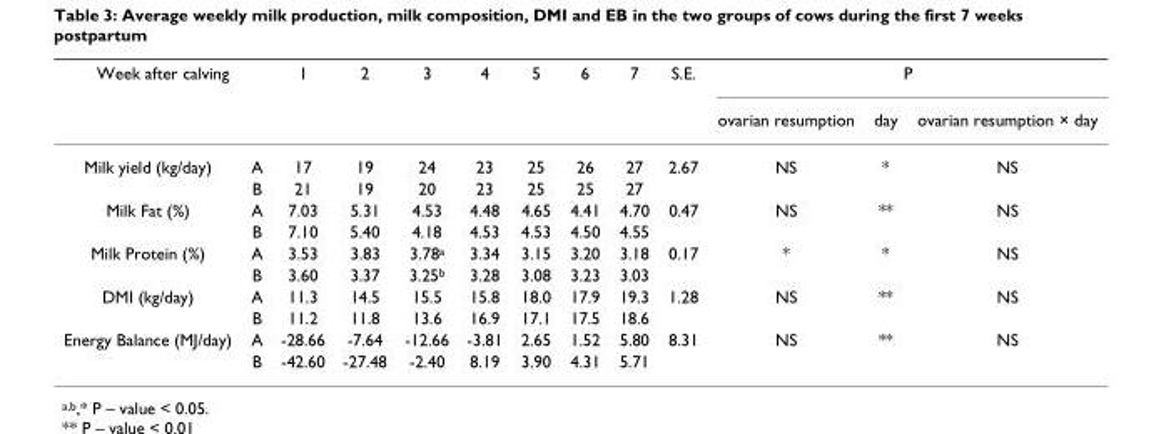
<table><thead><tr><td colspan="2">Week after calving</td><td rowspan="2">1</td><td rowspan="2">2</td><td rowspan="2">3</td><td rowspan="2">4</td><td rowspan="2">5</td><td rowspan="2">6</td><td rowspan="2">7</td><td rowspan="2">S.E.</td><td colspan="3">P</td></tr><tr><td></td><td></td><td>ovarian resumption</td><td>day</td><td>ovarian resumption × day</td></tr></thead><tbody><tr><td rowspan="2">Milk yield (kg/day)</td><td>A</td><td>17</td><td>19</td><td>24</td><td>23</td><td>25</td><td>26</td><td>27</td><td>2.67</td><td>NS</td><td>*</td><td>NS</td></tr><tr><td>B</td><td>21</td><td>19</td><td>20</td><td>23</td><td>25</td><td>25</td><td>27</td><td></td><td></td><td></td><td></td></tr><tr><td rowspan="2">Milk Fat (%)</td><td>A</td><td>7.03</td><td>5.31</td><td>4.53</td><td>4.48</td><td>4.65</td><td>4.41</td><td>4.70</td><td>0.47</td><td>NS</td><td>**</td><td>NS</td></tr><tr><td>B</td><td>7.10</td><td>5.40</td><td>4.18</td><td>4.53</td><td>4.53</td><td>4.50</td><td>4.55</td><td></td><td></td><td></td><td></td></tr><tr><td rowspan="2">Milk Protein (%)</td><td>A</td><td>3.53</td><td>3.83</td><td>3.78<sup>a</sup></td><td>3.34</td><td>3.15</td><td>3.20</td><td>3.18</td><td>0.17</td><td>*</td><td>*</td><td>NS</td></tr><tr><td>B</td><td>3.60</td><td>3.37</td><td>3.25<sup>b</sup></td><td>3.28</td><td>3.08</td><td>3.23</td><td>3.03</td><td></td><td></td><td></td><td></td></tr><tr><td rowspan="2">DMI (kg/day)</td><td>A</td><td>11.3</td><td>14.5</td><td>15.5</td><td>15.8</td><td>18.0</td><td>17.9</td><td>19.3</td><td>1.28</td><td>NS</td><td>**</td><td>NS</td></tr><tr><td>B</td><td>11.2</td><td>11.8</td><td>13.6</td><td>16.9</td><td>17.1</td><td>17.5</td><td>18.6</td><td></td><td></td><td></td><td></td></tr><tr><td rowspan="2">Energy Balance (MJ/day)</td><td>A</td><td>-28.66</td><td>-7.64</td><td>-12.66</td><td>-3.81</td><td>2.65</td><td>1.52</td><td>5.80</td><td>8.31</td><td>NS</td><td>**</td><td>NS</td></tr><tr><td>B</td><td>-42.60</td><td>-27.48</td><td>-2.40</td><td>8.19</td><td>3.90</td><td>4.31</td><td>5.71</td><td></td><td></td><td></td><td></td></tr></tbody></table>